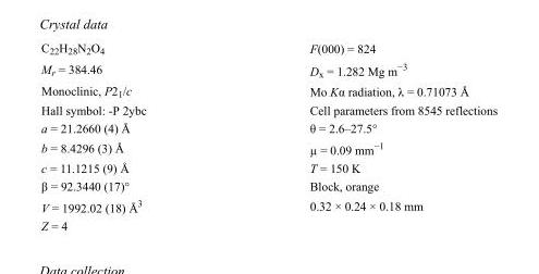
<table><tbody><tr><td>C<sub>22</sub>H<sub>28</sub>N<sub>2</sub>O<sub>4</sub></td><td>F(000) = 824</td></tr><tr><td>M<sub>r</sub> = 384.46</td><td>D<sub>x</sub> = 1.282 Mg m<sup>−3</sup></td></tr><tr><td>Monoclinic, P2<sub>1</sub>/c</td><td>Mo Kα radiation, λ = 0.71073 Å</td></tr><tr><td>Hall symbol: -P 2ybc</td><td>Cell parameters from 8545 reflections</td></tr><tr><td>a = 21.2660 (4) Å</td><td>θ = 2.6–27.5°</td></tr><tr><td>b = 8.4296 (3) Å</td><td>µ = 0.09 mm<sup>−1</sup></td></tr><tr><td>c = 11.1215 (9) Å</td><td>T = 150 K</td></tr><tr><td>β = 92.3440 (17)°</td><td>Block, orange</td></tr><tr><td>V = 1992.02 (18) Å<sup>3</sup></td><td>0.32 × 0.24 × 0.18 mm</td></tr><tr><td>Z = 4</td><td></td></tr></tbody></table>